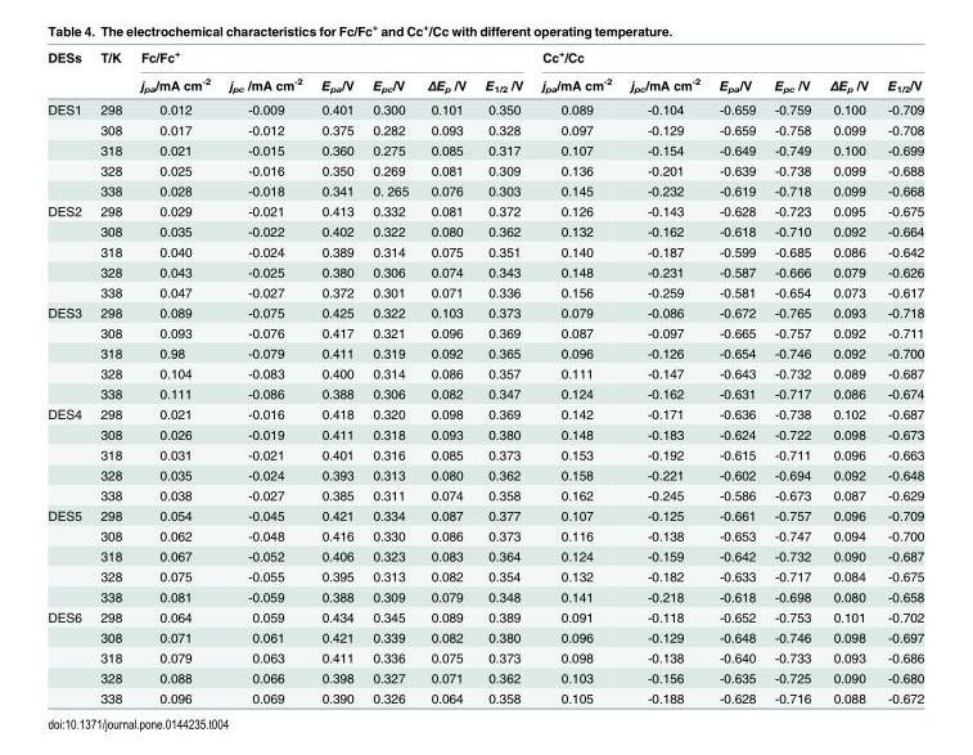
<table><thead><tr><td rowspan="2">DESs</td><td rowspan="2">T/K</td><td colspan="6">Fc/Fc<sup>+</sup></td><td colspan="6">Cc<sup>+</sup>/Cc</td></tr><tr><td>j<sub>pa</sub>/mA cm<sup>-2</sup></td><td>j<sub>pc</sub> /mA cm<sup>-2</sup></td><td>E<sub>pa</sub>/V</td><td>E<sub>pc</sub>/V</td><td>ΔE<sub>p</sub> /V</td><td>E<sub>1/2</sub> /V</td><td>j<sub>pa</sub>/mA cm<sup>-2</sup></td><td>j<sub>pc</sub>/mA cm<sup>-2</sup></td><td>E<sub>pa</sub>/V</td><td>E<sub>pc</sub> /V</td><td>ΔE<sub>p</sub> /V</td><td>E<sub>1/2</sub>/V</td></tr></thead><tbody><tr><td rowspan="5">DES1</td><td>298</td><td>0.012</td><td>-0.009</td><td>0.401</td><td>0.300</td><td>0.101</td><td>0.350</td><td>0.089</td><td>-0.104</td><td>-0.659</td><td>-0.759</td><td>0.100</td><td>-0.709</td></tr><tr><td>308</td><td>0.017</td><td>-0.012</td><td>0.375</td><td>0.282</td><td>0.093</td><td>0.328</td><td>0.097</td><td>-0.129</td><td>-0.659</td><td>-0.758</td><td>0.099</td><td>-0.708</td></tr><tr><td>318</td><td>0.021</td><td>-0.015</td><td>0.360</td><td>0.275</td><td>0.085</td><td>0.317</td><td>0.107</td><td>-0.154</td><td>-0.649</td><td>-0.749</td><td>0.100</td><td>-0.699</td></tr><tr><td>328</td><td>0.025</td><td>-0.016</td><td>0.350</td><td>0.269</td><td>0.081</td><td>0.309</td><td>0.136</td><td>-0.201</td><td>-0.639</td><td>-0.738</td><td>0.099</td><td>-0.688</td></tr><tr><td>338</td><td>0.028</td><td>-0.018</td><td>0.341</td><td>0. 265</td><td>0.076</td><td>0.303</td><td>0.145</td><td>-0.232</td><td>-0.619</td><td>-0.718</td><td>0.099</td><td>-0.668</td></tr><tr><td rowspan="5">DES2</td><td>298</td><td>0.029</td><td>-0.021</td><td>0.413</td><td>0.332</td><td>0.081</td><td>0.372</td><td>0.126</td><td>-0.143</td><td>-0.628</td><td>-0.723</td><td>0.095</td><td>-0.675</td></tr><tr><td>308</td><td>0.035</td><td>-0.022</td><td>0.402</td><td>0.322</td><td>0.080</td><td>0.362</td><td>0.132</td><td>-0.162</td><td>-0.618</td><td>-0.710</td><td>0.092</td><td>-0.664</td></tr><tr><td>318</td><td>0.040</td><td>-0.024</td><td>0.389</td><td>0.314</td><td>0.075</td><td>0.351</td><td>0.140</td><td>-0.187</td><td>-0.599</td><td>-0.685</td><td>0.086</td><td>-0.642</td></tr><tr><td>328</td><td>0.043</td><td>-0.025</td><td>0.380</td><td>0.306</td><td>0.074</td><td>0.343</td><td>0.148</td><td>-0.231</td><td>-0.587</td><td>-0.666</td><td>0.079</td><td>-0.626</td></tr><tr><td>338</td><td>0.047</td><td>-0.027</td><td>0.372</td><td>0.301</td><td>0.071</td><td>0.336</td><td>0.156</td><td>-0.259</td><td>-0.581</td><td>-0.654</td><td>0.073</td><td>-0.617</td></tr><tr><td rowspan="5">DES3</td><td>298</td><td>0.089</td><td>-0.075</td><td>0.425</td><td>0.322</td><td>0.103</td><td>0.373</td><td>0.079</td><td>-0.086</td><td>-0.672</td><td>-0.765</td><td>0.093</td><td>-0.718</td></tr><tr><td>308</td><td>0.093</td><td>-0.076</td><td>0.417</td><td>0.321</td><td>0.096</td><td>0.369</td><td>0.087</td><td>-0.097</td><td>-0.665</td><td>-0.757</td><td>0.092</td><td>-0.711</td></tr><tr><td>318</td><td>0.98</td><td>-0.079</td><td>0.411</td><td>0.319</td><td>0.092</td><td>0.365</td><td>0.096</td><td>-0.126</td><td>-0.654</td><td>-0.746</td><td>0.092</td><td>-0.700</td></tr><tr><td>328</td><td>0.104</td><td>-0.083</td><td>0.400</td><td>0.314</td><td>0.086</td><td>0.357</td><td>0.111</td><td>-0.147</td><td>-0.643</td><td>-0.732</td><td>0.089</td><td>-0.687</td></tr><tr><td>338</td><td>0.111</td><td>-0.086</td><td>0.388</td><td>0.306</td><td>0.082</td><td>0.347</td><td>0.124</td><td>-0.162</td><td>-0.631</td><td>-0.717</td><td>0.086</td><td>-0.674</td></tr><tr><td rowspan="5">DES4</td><td>298</td><td>0.021</td><td>-0.016</td><td>0.418</td><td>0.320</td><td>0.098</td><td>0.369</td><td>0.142</td><td>-0.171</td><td>-0.636</td><td>-0.738</td><td>0.102</td><td>-0.687</td></tr><tr><td>308</td><td>0.026</td><td>-0.019</td><td>0.411</td><td>0.318</td><td>0.093</td><td>0.380</td><td>0.148</td><td>-0.183</td><td>-0.624</td><td>-0.722</td><td>0.098</td><td>-0.673</td></tr><tr><td>318</td><td>0.031</td><td>-0.021</td><td>0.401</td><td>0.316</td><td>0.085</td><td>0.373</td><td>0.153</td><td>-0.192</td><td>-0.615</td><td>-0.711</td><td>0.096</td><td>-0.663</td></tr><tr><td>328</td><td>0.035</td><td>-0.024</td><td>0.393</td><td>0.313</td><td>0.080</td><td>0.362</td><td>0.158</td><td>-0.221</td><td>-0.602</td><td>-0.694</td><td>0.092</td><td>-0.648</td></tr><tr><td>338</td><td>0.038</td><td>-0.027</td><td>0.385</td><td>0.311</td><td>0.074</td><td>0.358</td><td>0.162</td><td>-0.245</td><td>-0.586</td><td>-0.673</td><td>0.087</td><td>-0.629</td></tr><tr><td rowspan="5">DES5</td><td>298</td><td>0.054</td><td>-0.045</td><td>0.421</td><td>0.334</td><td>0.087</td><td>0.377</td><td>0.107</td><td>-0.125</td><td>-0.661</td><td>-0.757</td><td>0.096</td><td>-0.709</td></tr><tr><td>308</td><td>0.062</td><td>-0.048</td><td>0.416</td><td>0.330</td><td>0.086</td><td>0.373</td><td>0.116</td><td>-0.138</td><td>-0.653</td><td>-0.747</td><td>0.094</td><td>-0.700</td></tr><tr><td>318</td><td>0.067</td><td>-0.052</td><td>0.406</td><td>0.323</td><td>0.083</td><td>0.364</td><td>0.124</td><td>-0.159</td><td>-0.642</td><td>-0.732</td><td>0.090</td><td>-0.687</td></tr><tr><td>328</td><td>0.075</td><td>-0.055</td><td>0.395</td><td>0.313</td><td>0.082</td><td>0.354</td><td>0.132</td><td>-0.182</td><td>-0.633</td><td>-0.717</td><td>0.084</td><td>-0.675</td></tr><tr><td>338</td><td>0.081</td><td>-0.059</td><td>0.388</td><td>0.309</td><td>0.079</td><td>0.348</td><td>0.141</td><td>-0.218</td><td>-0.618</td><td>-0.698</td><td>0.080</td><td>-0.658</td></tr><tr><td rowspan="5">DES6</td><td>298</td><td>0.064</td><td>0.059</td><td>0.434</td><td>0.345</td><td>0.089</td><td>0.389</td><td>0.091</td><td>-0.118</td><td>-0.652</td><td>-0.753</td><td>0.101</td><td>-0.702</td></tr><tr><td>308</td><td>0.071</td><td>0.061</td><td>0.421</td><td>0.339</td><td>0.082</td><td>0.380</td><td>0.096</td><td>-0.129</td><td>-0.648</td><td>-0.746</td><td>0.098</td><td>-0.697</td></tr><tr><td>318</td><td>0.079</td><td>0.063</td><td>0.411</td><td>0.336</td><td>0.075</td><td>0.373</td><td>0.098</td><td>-0.138</td><td>-0.640</td><td>-0.733</td><td>0.093</td><td>-0.686</td></tr><tr><td>328</td><td>0.088</td><td>0.066</td><td>0.398</td><td>0.327</td><td>0.071</td><td>0.362</td><td>0.103</td><td>-0.156</td><td>-0.635</td><td>-0.725</td><td>0.090</td><td>-0.680</td></tr><tr><td>338</td><td>0.096</td><td>0.069</td><td>0.390</td><td>0.326</td><td>0.064</td><td>0.358</td><td>0.105</td><td>-0.188</td><td>-0.628</td><td>-0.716</td><td>0.088</td><td>-0.672</td></tr></tbody></table>